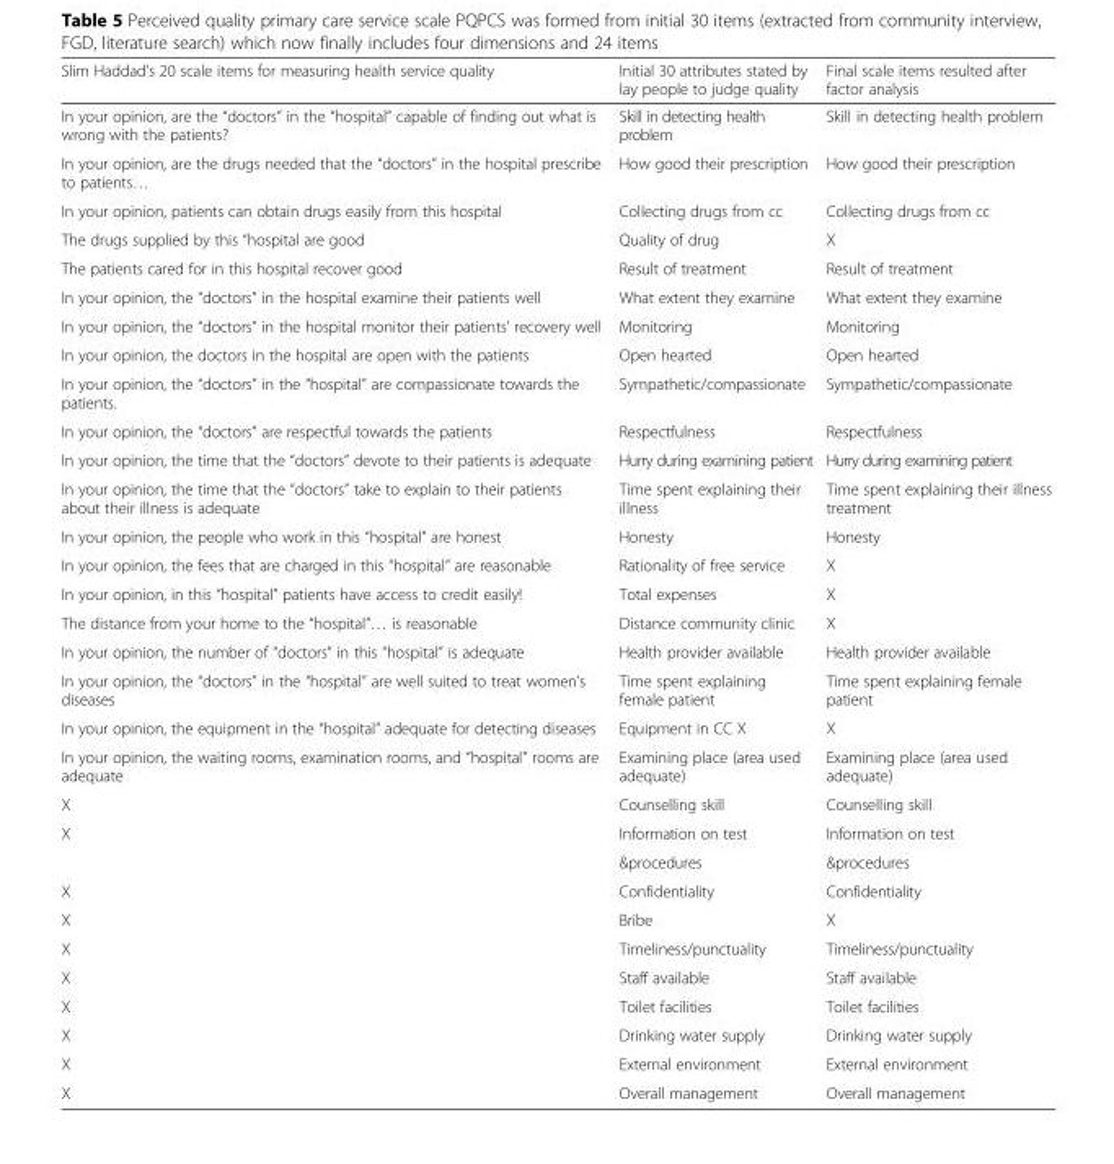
<table><thead><tr><td>Slim Haddad’s 20 scale items for measuring health service quality</td><td>Initial 30 attributes stated by lay people to judge quality</td><td>Final scale items resulted after factor analysis</td></tr></thead><tbody><tr><td>In your opinion, are the “doctors” in the “hospital” capable of finding out what is wrong with the patients?</td><td>Skill in detecting health problem</td><td>Skill in detecting health problem</td></tr><tr><td>In your opinion, are the drugs needed that the “doctors” in the hospital prescribe to patients…</td><td>How good their prescription</td><td>How good their prescription</td></tr><tr><td>In your opinion, patients can obtain drugs easily from this hospital</td><td>Collecting drugs from cc</td><td>Collecting drugs from cc</td></tr><tr><td>The drugs supplied by this “hospital are good</td><td>Quality of drug</td><td>X</td></tr><tr><td>The patients cared for in this hospital recover good</td><td>Result of treatment</td><td>Result of treatment</td></tr><tr><td>In your opinion, the “doctors” in the hospital examine their patients well</td><td>What extent they examine</td><td>What extent they examine</td></tr><tr><td>In your opinion, the “doctors” in the hospital monitor their patients’ recovery well</td><td>Monitoring</td><td>Monitoring</td></tr><tr><td>In your opinion, the doctors in the hospital are open with the patients</td><td>Open hearted</td><td>Open hearted</td></tr><tr><td>In your opinion, the “doctors” in the “hospital” are compassionate towards the patients.</td><td>Sympathetic/compassionate</td><td>Sympathetic/compassionate</td></tr><tr><td>In your opinion, the “doctors” are respectful towards the patients</td><td>Respectfulness</td><td>Respectfulness</td></tr><tr><td>In your opinion, the time that the “doctors” devote to their patients is adequate</td><td>Hurry during examining patient</td><td>Hurry during examining patient</td></tr><tr><td>In your opinion, the time that the “doctors” take to explain to their patients about their illness is adequate</td><td>Time spent explaining their illness</td><td>Time spent explaining their illness treatment</td></tr><tr><td>In your opinion, the people who work in this “hospital” are honest</td><td>Honesty</td><td>Honesty</td></tr><tr><td>In your opinion, the fees that are charged in this “hospital” are reasonable</td><td>Rationality of free service</td><td>X</td></tr><tr><td>In your opinion, in this “hospital” patients have access to credit easily!</td><td>Total expenses</td><td>X</td></tr><tr><td>The distance from your home to the “hospital”… is reasonable</td><td>Distance community clinic</td><td>X</td></tr><tr><td>In your opinion, the number of “doctors” in this “hospital” is adequate</td><td>Health provider available</td><td>Health provider available</td></tr><tr><td>In your opinion, the “doctors” in the “hospital” are well suited to treat women’s diseases</td><td>Time spent explaining female patient</td><td>Time spent explaining female patient</td></tr><tr><td>In your opinion, the equipment in the “hospital” adequate for detecting diseases</td><td>Equipment in CC X</td><td>X</td></tr><tr><td>In your opinion, the waiting rooms, examination rooms, and “hospital” rooms are adequate</td><td>Examining place (area used adequate)</td><td>Examining place (area used adequate)</td></tr><tr><td>X</td><td>Counselling skill</td><td>Counselling skill</td></tr><tr><td rowspan="2">X</td><td>Information on test</td><td>Information on test</td></tr><tr><td>&amp;procedures</td><td>&amp;procedures</td></tr><tr><td>X</td><td>Confidentiality</td><td>Confidentiality</td></tr><tr><td>X</td><td>Bribe</td><td>X</td></tr><tr><td>X</td><td>Timeliness/punctuality</td><td>Timeliness/punctuality</td></tr><tr><td>X</td><td>Staff available</td><td>Staff available</td></tr><tr><td>X</td><td>Toilet facilities</td><td>Toilet facilities</td></tr><tr><td>X</td><td>Drinking water supply</td><td>Drinking water supply</td></tr><tr><td>X</td><td>External environment</td><td>External environment</td></tr><tr><td>X</td><td>Overall management</td><td>Overall management</td></tr></tbody></table>